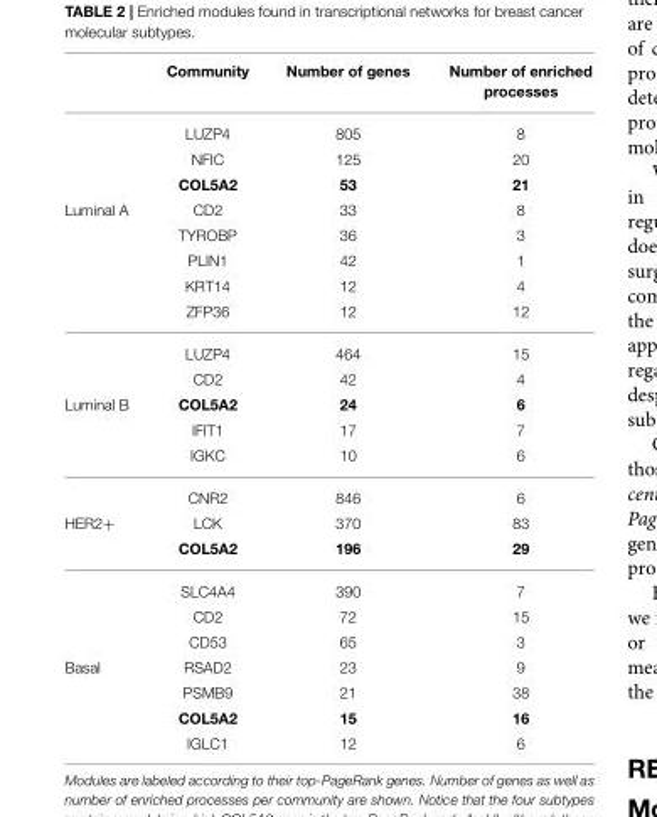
<table><thead><tr><td></td><td>Community</td><td>Number of genes</td><td>Number of enriched processes</td></tr></thead><tbody><tr><td></td><td>LUZP4</td><td>805</td><td>8</td></tr><tr><td></td><td>NFIC</td><td>125</td><td>20</td></tr><tr><td></td><td>COL5A2</td><td>53</td><td>21</td></tr><tr><td rowspan="7">Luminal A</td><td>CD2</td><td>33</td><td>8</td></tr><tr><td>TYROBP</td><td>36</td><td>3</td></tr><tr><td>PLIN1</td><td>42</td><td>1</td></tr><tr><td>KRT14</td><td>12</td><td>4</td></tr><tr><td>ZFP36</td><td>12</td><td>12</td></tr><tr><td>LUZP4</td><td>464</td><td>15</td></tr><tr><td>CD2</td><td>42</td><td>4</td></tr><tr><td rowspan="4">Luminal B</td><td>COL5A2</td><td>24</td><td>6</td></tr><tr><td>IFIT1</td><td>17</td><td>7</td></tr><tr><td>IGKC</td><td>10</td><td>6</td></tr><tr><td>CNR2</td><td>846</td><td>6</td></tr><tr><td rowspan="5">HER2+</td><td>LCK</td><td>370</td><td>83</td></tr><tr><td>COL5A2</td><td>196</td><td>29</td></tr><tr><td>SLC4A4</td><td>390</td><td>7</td></tr><tr><td>CD2</td><td>72</td><td>15</td></tr><tr><td>CD53</td><td>65</td><td>3</td></tr><tr><td rowspan="4">Basal</td><td>RSAD2</td><td>23</td><td>9</td></tr><tr><td>PSMB9</td><td>21</td><td>38</td></tr><tr><td>COL5A2</td><td>15</td><td>16</td></tr><tr><td>IGLC1</td><td>12</td><td>6</td></tr></tbody></table>